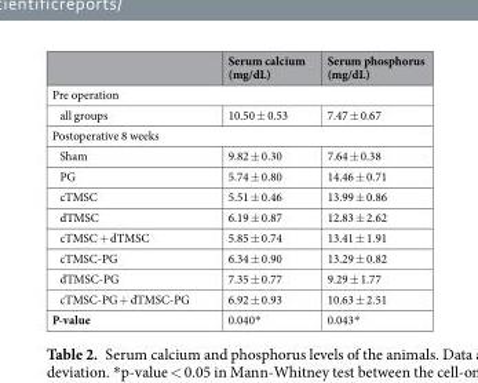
<table><thead><tr><td></td><td>Serum calcium (mg/dL)</td><td>Serum phosphorus (mg/dL)</td></tr></thead><tbody><tr><td colspan="3">Pre operation</td></tr><tr><td>all groups</td><td>10.50 ± 0.53</td><td>7.47 ± 0.67</td></tr><tr><td colspan="3">Postoperative 8 weeks</td></tr><tr><td>Sham</td><td>9.82 ± 0.30</td><td>7.64 ± 0.38</td></tr><tr><td>PG</td><td>5.74 ± 0.80</td><td>14.46 ± 0.71</td></tr><tr><td>cTMSC</td><td>5.51 ± 0.46</td><td>13.99 ± 0.86</td></tr><tr><td>dTMSC</td><td>6.19 ± 0.87</td><td>12.83 ± 2.62</td></tr><tr><td>cTMSC + dTMSC</td><td>5.85 ± 0.74</td><td>13.41 ± 1.91</td></tr><tr><td>cTMSC-PG</td><td>6.34 ± 0.90</td><td>13.29 ± 0.82</td></tr><tr><td>dTMSC-PG</td><td>7.35 ± 0.77</td><td>9.29 ± 1.77</td></tr><tr><td>cTMSC-PG + dTMSC-PG</td><td>6.92 ± 0.93</td><td>10.63 ± 2.51</td></tr><tr><td>P-value</td><td>0.040*</td><td>0.043*</td></tr></tbody></table>